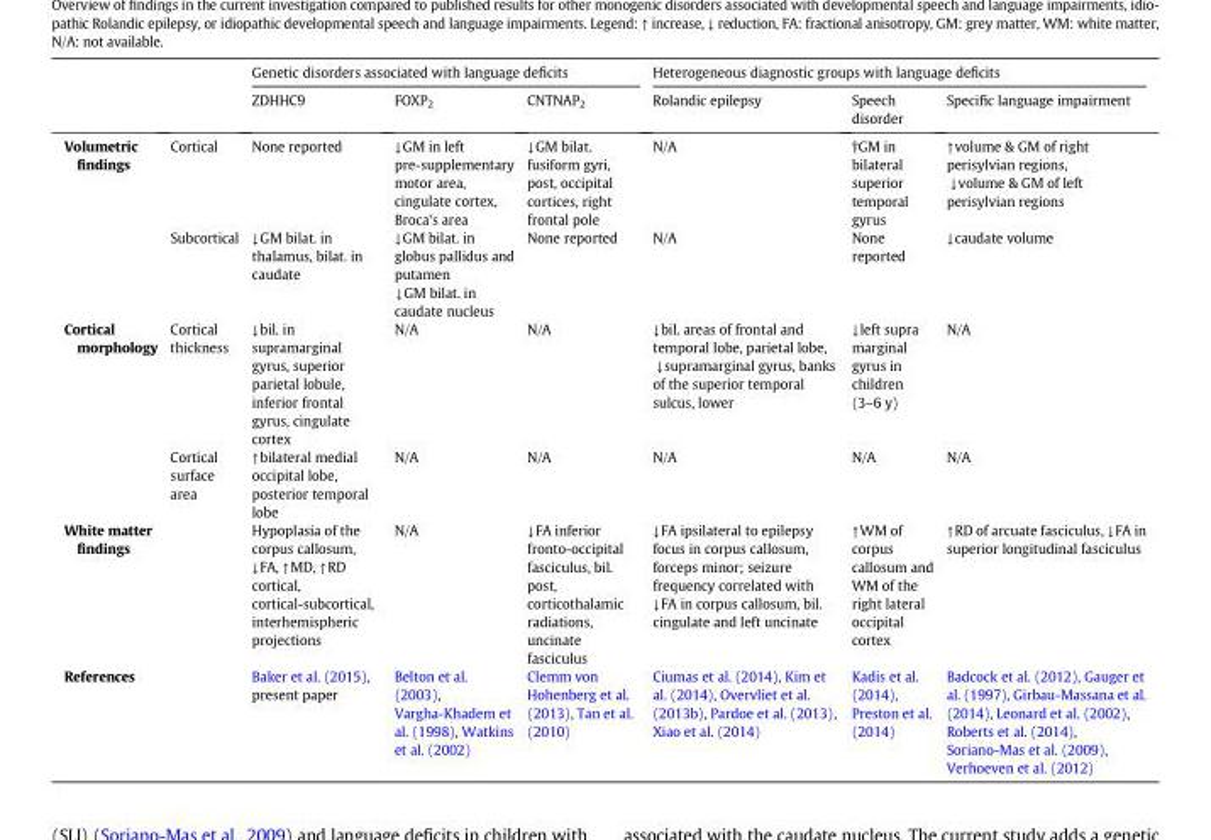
<table><thead><tr><td rowspan="2"></td><td rowspan="2"></td><td colspan="3">Genetic disorders associated with language deficits</td><td colspan="3">Heterogeneous diagnostic groups with language deficits</td></tr><tr><td>ZDHHC9</td><td>FOXP<sub>2</sub></td><td>CNTNAP<sub>2</sub></td><td>Rolandic epilepsy</td><td>Speech disorder</td><td>Specific language impairment</td></tr></thead><tbody><tr><td rowspan="2">Volumetric findings</td><td>Cortical</td><td>None reported</td><td>↓GM in left pre-supplementary motor area, cingulate cortex, Broca&#x27;s area</td><td>↓GM bilat. fusiform gyri, post, occipital cortices, right frontal pole</td><td>N/A</td><td>†GM in bilateral superior temporal gyrus</td><td>↑volume &amp; GM of right perisylvian regions, ↓volume &amp; GM of left perisylvian regions</td></tr><tr><td>Subcortical</td><td>↓GM bilat. in thalamus, bilat. in caudate</td><td>↓GM bilat. in globus pallidus and putamen ↓GM bilat. in caudate nucleus</td><td>None reported</td><td>N/A</td><td>None reported</td><td>↓caudate volume</td></tr><tr><td rowspan="2">Cortical morphology</td><td>Cortical thickness</td><td>↓bil. in supramarginal gyrus, superior parietal lobule, inferior frontal gyrus, cingulate cortex</td><td>N/A</td><td>N/A</td><td>↓bil. areas of frontal and temporal lobe, parietal lobe, ↓supramarginal gyrus, banks of the superior temporal sulcus, lower</td><td>↓left supra marginal gyrus in children (3–6 y)</td><td>N/A</td></tr><tr><td>Cortical surface area</td><td>↑bilateral medial occipital lobe, posterior temporal lobe</td><td>N/A</td><td>N/A</td><td>N/A</td><td>N/A</td><td>N/A</td></tr><tr><td>White matter findings</td><td></td><td>Hypoplasia of the corpus callosum, ↓FA, ↑MD, ↑RD cortical, cortical-subcortical, interhemispheric projections</td><td>N/A</td><td>↓FA inferior fronto-occipital fasciculus, bil. post, corticothalamic radiations, uncinate fasciculus</td><td>↓FA ipsilateral to epilepsy focus in corpus callosum, forceps minor; seizure frequency correlated with ↓FA in corpus callosum, bil. cingulate and left uncinate</td><td>↑WM of corpus callosum and WM of the right lateral occipital cortex</td><td>↑RD of arcuate fasciculus, ↓FA in superior longitudinal fasciculus</td></tr><tr><td>References</td><td></td><td>Baker et al. (2015), present paper</td><td>Belton et al. (2003), Vargha-Khadem et al. (1998), Watkins et al. (2002)</td><td>Clemm von Hohenberg et al. (2013), Tan et al. (2010)</td><td>Ciumas et al. (2014), Kim et al. (2014), Overvliet et al. (2013b), Pardoe et al. (2013), Xiao et al. (2014)</td><td>Kadis et al. (2014), Preston et al. (2014)</td><td>Badcock et al. (2012), Gauger et al. (1997), Girbau-Massana et al. (2014), Leonard et al. (2002), Roberts et al. (2014), Soriano-Mas et al. (2009), Verhoeven et al. (2012)</td></tr></tbody></table>